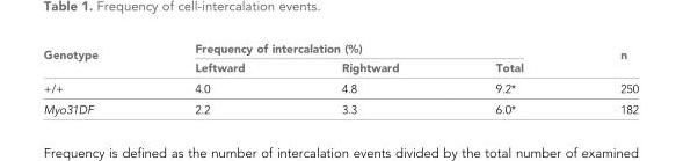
<table><thead><tr><td rowspan="2">Genotype</td><td colspan="3">Frequency of intercalation (%)</td><td rowspan="2">n</td></tr><tr><td>Leftward</td><td>Rightward</td><td>Total</td></tr></thead><tbody><tr><td>+/+</td><td>4.0</td><td>4.8</td><td>9.2*</td><td>250</td></tr><tr><td>Myo31DF</td><td>2.2</td><td>3.3</td><td>6.0*</td><td>182</td></tr></tbody></table>